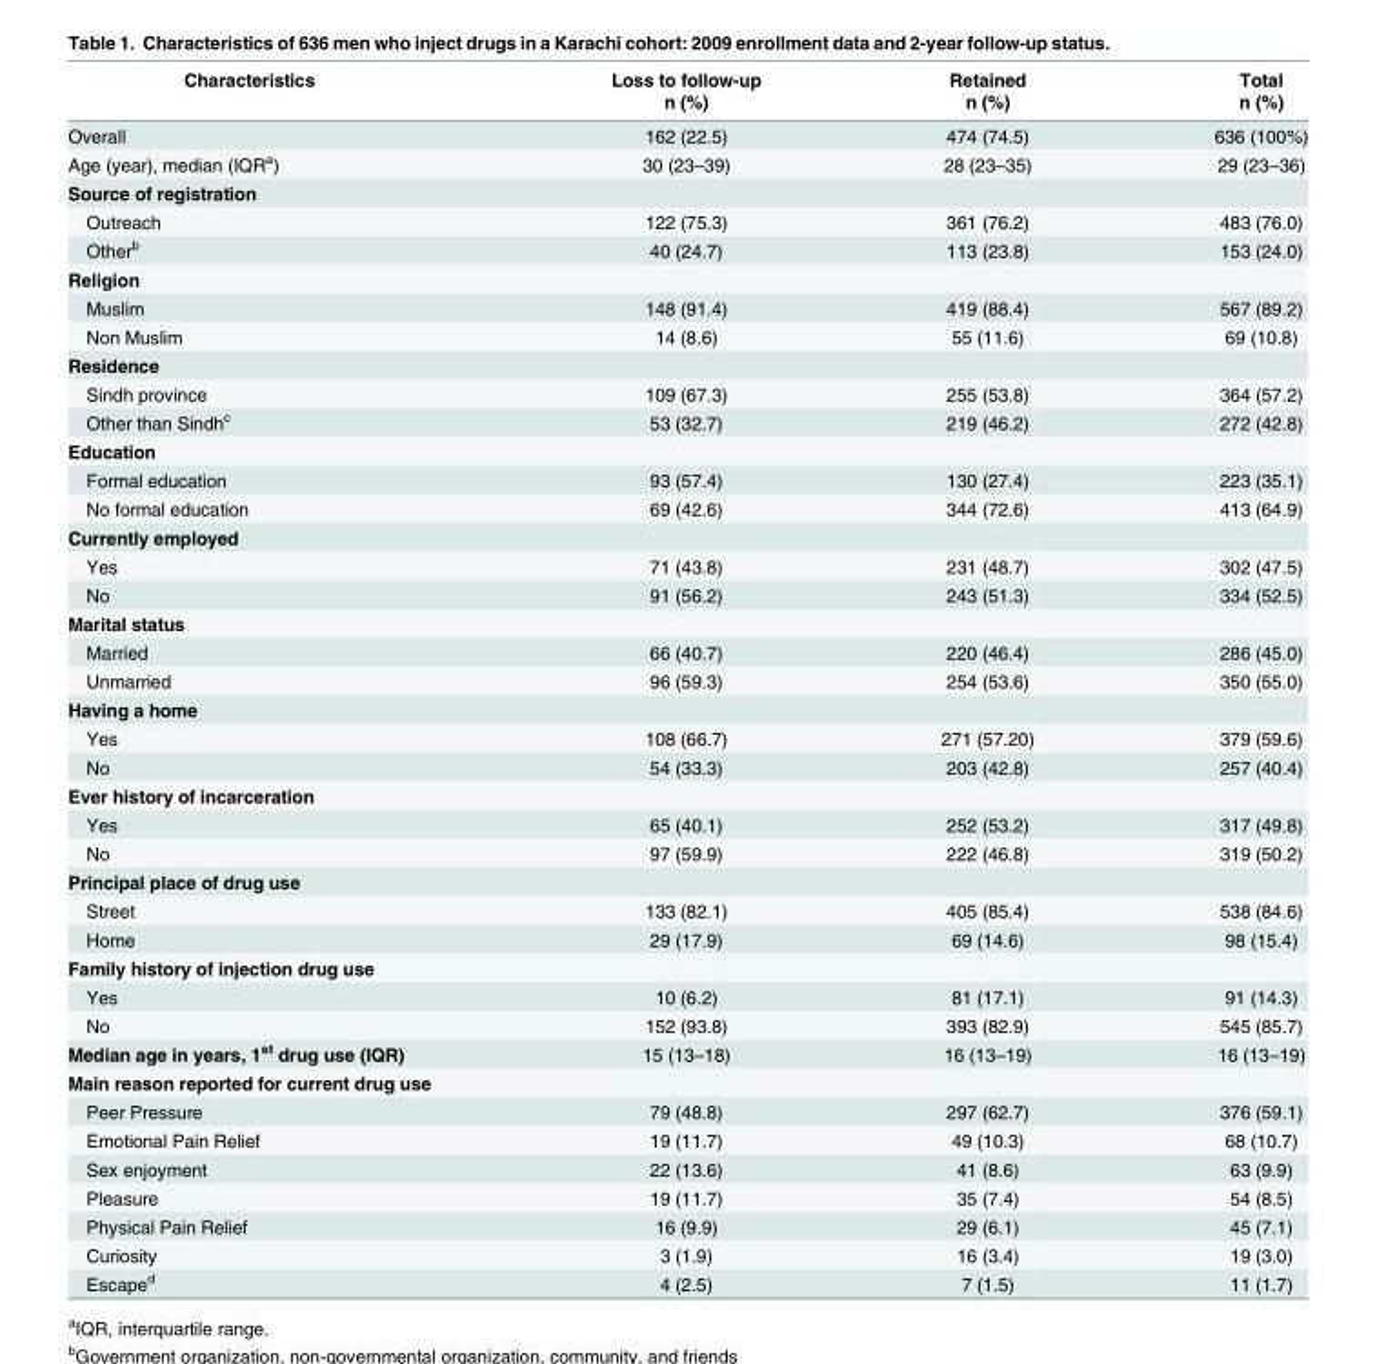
<table><thead><tr><td rowspan="2">Characteristics</td><td rowspan="2">Loss to follow-up n (%)</td><td rowspan="2">Retained n (%)</td><td rowspan="2">Total n (%)</td></tr><tr></tr></thead><tbody><tr><td>Overall</td><td>162 (22.5)</td><td>474 (74.5)</td><td>636 (100%)</td></tr><tr><td>Age (year), median (IQR<sup>a</sup>)</td><td>30 (23–39)</td><td>28 (23–35)</td><td>29 (23–36)</td></tr><tr><td colspan="4">Source of registration</td></tr><tr><td>Outreach</td><td>122 (75.3)</td><td>361 (76.2)</td><td>483 (76.0)</td></tr><tr><td>Other<sup>b</sup></td><td>40 (24.7)</td><td>113 (23.8)</td><td>153 (24.0)</td></tr><tr><td colspan="4">Religion</td></tr><tr><td>Muslim</td><td>148 (91.4)</td><td>419 (88.4)</td><td>567 (89.2)</td></tr><tr><td>Non Muslim</td><td>14 (8.6)</td><td>55 (11.6)</td><td>69 (10.8)</td></tr><tr><td colspan="4">Residence</td></tr><tr><td>Sindh province</td><td>109 (67.3)</td><td>255 (53.8)</td><td>364 (57.2)</td></tr><tr><td>Other than Sindh<sup>c</sup></td><td>53 (32.7)</td><td>219 (46.2)</td><td>272 (42.8)</td></tr><tr><td colspan="4">Education</td></tr><tr><td>Formal education</td><td>93 (57.4)</td><td>130 (27.4)</td><td>223 (35.1)</td></tr><tr><td>No formal education</td><td>69 (42.6)</td><td>344 (72.6)</td><td>413 (64.9)</td></tr><tr><td colspan="4">Currently employed</td></tr><tr><td>Yes</td><td>71 (43.8)</td><td>231 (48.7)</td><td>302 (47.5)</td></tr><tr><td>No</td><td>91 (56.2)</td><td>243 (51.3)</td><td>334 (52.5)</td></tr><tr><td colspan="4">Marital status</td></tr><tr><td>Married</td><td>66 (40.7)</td><td>220 (46.4)</td><td>286 (45.0)</td></tr><tr><td>Unmarried</td><td>96 (59.3)</td><td>254 (53.6)</td><td>350 (55.0)</td></tr><tr><td colspan="4">Having a home</td></tr><tr><td>Yes</td><td>108 (66.7)</td><td>271 (57.20)</td><td>379 (59.6)</td></tr><tr><td>No</td><td>54 (33.3)</td><td>203 (42.8)</td><td>257 (40.4)</td></tr><tr><td colspan="4">Ever history of incarceration</td></tr><tr><td>Yes</td><td>65 (40.1)</td><td>252 (53.2)</td><td>317 (49.8)</td></tr><tr><td>No</td><td>97 (59.9)</td><td>222 (46.8)</td><td>319 (50.2)</td></tr><tr><td colspan="4">Principal place of drug use</td></tr><tr><td>Street</td><td>133 (82.1)</td><td>405 (85.4)</td><td>538 (84.6)</td></tr><tr><td>Home</td><td>29 (17.9)</td><td>69 (14.6)</td><td>98 (15.4)</td></tr><tr><td colspan="4">Family history of injection drug use</td></tr><tr><td>Yes</td><td>10 (6.2)</td><td>81 (17.1)</td><td>91 (14.3)</td></tr><tr><td>No</td><td>152 (93.8)</td><td>393 (82.9)</td><td>545 (85.7)</td></tr><tr><td>Median age in years, 1<sup>st</sup> drug use (IQR)</td><td>15 (13–18)</td><td>16 (13–19)</td><td>16 (13–19)</td></tr><tr><td colspan="4">Main reason reported for current drug use</td></tr><tr><td>Peer Pressure</td><td>79 (48.8)</td><td>297 (62.7)</td><td>376 (59.1)</td></tr><tr><td>Emotional Pain Relief</td><td>19 (11.7)</td><td>49 (10.3)</td><td>68 (10.7)</td></tr><tr><td>Sex enjoyment</td><td>22 (13.6)</td><td>41 (8.6)</td><td>63 (9.9)</td></tr><tr><td>Pleasure</td><td>19 (11.7)</td><td>35 (7.4)</td><td>54 (8.5)</td></tr><tr><td>Physical Pain Relief</td><td>16 (9.9)</td><td>29 (6.1)</td><td>45 (7.1)</td></tr><tr><td>Curiosity</td><td>3 (1.9)</td><td>16 (3.4)</td><td>19 (3.0)</td></tr><tr><td>Escape<sup>d</sup></td><td>4 (2.5)</td><td>7 (1.5)</td><td>11 (1.7)</td></tr></tbody></table>